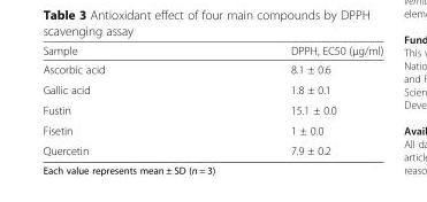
<table><thead><tr><td>Sample</td><td>DPPH, EC50 (μg/ml)</td></tr></thead><tbody><tr><td>Ascorbic acid</td><td>8.1 ± 0.6</td></tr><tr><td>Gallic acid</td><td>1.8 ± 0.1</td></tr><tr><td>Fustin</td><td>15.1 ± 0.0</td></tr><tr><td>Fisetin</td><td>1 ± 0.0</td></tr><tr><td>Quercetin</td><td>7.9 ± 0.2</td></tr></tbody></table>